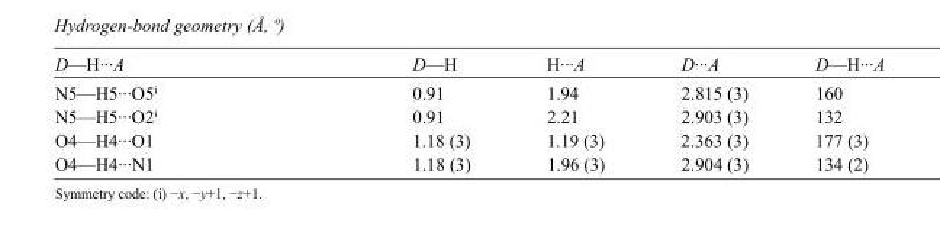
<table><tbody><tr><td>D—H···A</td><td>D—H</td><td>H···A</td><td>D···A</td><td>D—H···A</td></tr><tr><td>N5—H5···O5<sup>i</sup></td><td>0.91</td><td>1.94</td><td>2.815 (3)</td><td>160</td></tr><tr><td>N5—H5···O2<sup>i</sup></td><td>0.91</td><td>2.21</td><td>2.903 (3)</td><td>132</td></tr><tr><td>O4—H4···O1</td><td>1.18 (3)</td><td>1.19 (3)</td><td>2.363 (3)</td><td>177 (3)</td></tr><tr><td>O4—H4···N1</td><td>1.18 (3)</td><td>1.96 (3)</td><td>2.904 (3)</td><td>134 (2)</td></tr></tbody></table>